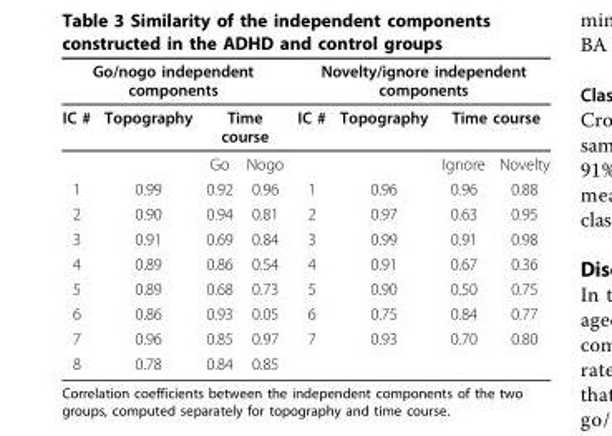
<table><thead><tr><td colspan="4">Go/nogo independent components</td><td colspan="4">Novelty/ignore independent components</td></tr><tr><td rowspan="2">IC #</td><td rowspan="2">Topography</td><td colspan="2">Time course</td><td rowspan="2">IC #</td><td rowspan="2">Topography</td><td colspan="2">Time course</td></tr><tr><td>Go</td><td>Nogo</td><td>Ignore</td><td>Novelty</td></tr></thead><tbody><tr><td>1</td><td>0.99</td><td>0.92</td><td>0.96</td><td>1</td><td>0.96</td><td>0.96</td><td>0.88</td></tr><tr><td>2</td><td>0.90</td><td>0.94</td><td>0.81</td><td>2</td><td>0.97</td><td>0.63</td><td>0.95</td></tr><tr><td>3</td><td>0.91</td><td>0.69</td><td>0.84</td><td>3</td><td>0.99</td><td>0.91</td><td>0.98</td></tr><tr><td>4</td><td>0.89</td><td>0.86</td><td>0.54</td><td>4</td><td>0.91</td><td>0.67</td><td>0.36</td></tr><tr><td>5</td><td>0.89</td><td>0.68</td><td>0.73</td><td>5</td><td>0.90</td><td>0.50</td><td>0.75</td></tr><tr><td>6</td><td>0.86</td><td>0.93</td><td>0.05</td><td>6</td><td>0.75</td><td>0.84</td><td>0.77</td></tr><tr><td>7</td><td>0.96</td><td>0.85</td><td>0.97</td><td>7</td><td>0.93</td><td>0.70</td><td>0.80</td></tr><tr><td>8</td><td>0.78</td><td>0.84</td><td>0.85</td><td></td><td></td><td></td><td></td></tr></tbody></table>